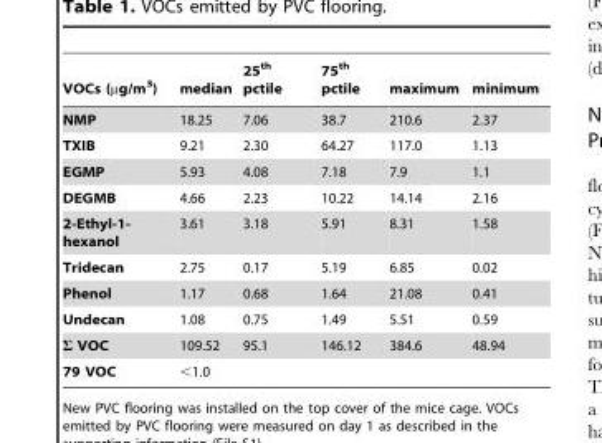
<table><thead><tr><td>VOCs (µg/m<sup>3</sup>)</td><td>median</td><td>25<sup>th</sup> pctile</td><td>75<sup>th</sup> pctile</td><td>maximum</td><td>minimum</td></tr></thead><tbody><tr><td>NMP</td><td>18.25</td><td>7.06</td><td>38.7</td><td>210.6</td><td>2.37</td></tr><tr><td>TXIB</td><td>9.21</td><td>2.30</td><td>64.27</td><td>117.0</td><td>1.13</td></tr><tr><td>EGMP</td><td>5.93</td><td>4.08</td><td>7.18</td><td>7.9</td><td>1.1</td></tr><tr><td>DEGMB</td><td>4.66</td><td>2.23</td><td>10.22</td><td>14.14</td><td>2.16</td></tr><tr><td>2-Ethyl-1- hexanol</td><td>3.61</td><td>3.18</td><td>5.91</td><td>8.31</td><td>1.58</td></tr><tr><td>Tridecan</td><td>2.75</td><td>0.17</td><td>5.19</td><td>6.85</td><td>0.02</td></tr><tr><td>Phenol</td><td>1.17</td><td>0.68</td><td>1.64</td><td>21.08</td><td>0.41</td></tr><tr><td>Undecan</td><td>1.08</td><td>0.75</td><td>1.49</td><td>5.51</td><td>0.59</td></tr><tr><td>Σ VOC</td><td>109.52</td><td>95.1</td><td>146.12</td><td>384.6</td><td>48.94</td></tr><tr><td>79 VOC</td><td>&lt;1.0</td><td></td><td></td><td></td><td></td></tr></tbody></table>